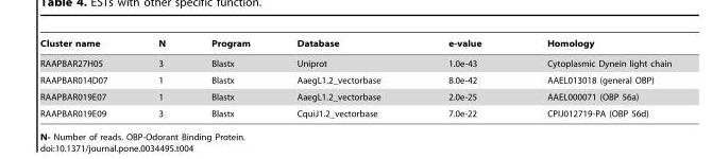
<table><thead><tr><td>Cluster name</td><td>N</td><td>Program</td><td>Database</td><td>e-value</td><td>Homology</td></tr></thead><tbody><tr><td>RAAPBAR27H05</td><td>3</td><td>Blastx</td><td>Uniprot</td><td>1.0e-43</td><td>Cytoplasmic Dynein light chain</td></tr><tr><td>RAAPBAR014D07</td><td>1</td><td>Blastx</td><td>AaegL1.2_vectorbase</td><td>8.0e-42</td><td>AAEL013018 (general OBP)</td></tr><tr><td>RAAPBAR019E07</td><td>1</td><td>Blastx</td><td>AaegL1.2_vectorbase</td><td>2.0e-25</td><td>AAEL000071 (OBP 56a)</td></tr><tr><td>RAAPBAR019E09</td><td>3</td><td>Blastx</td><td>CquiJ1.2_vectorbase</td><td>7.0e-22</td><td>CPIJ012719-PA (OBP 56d)</td></tr></tbody></table>